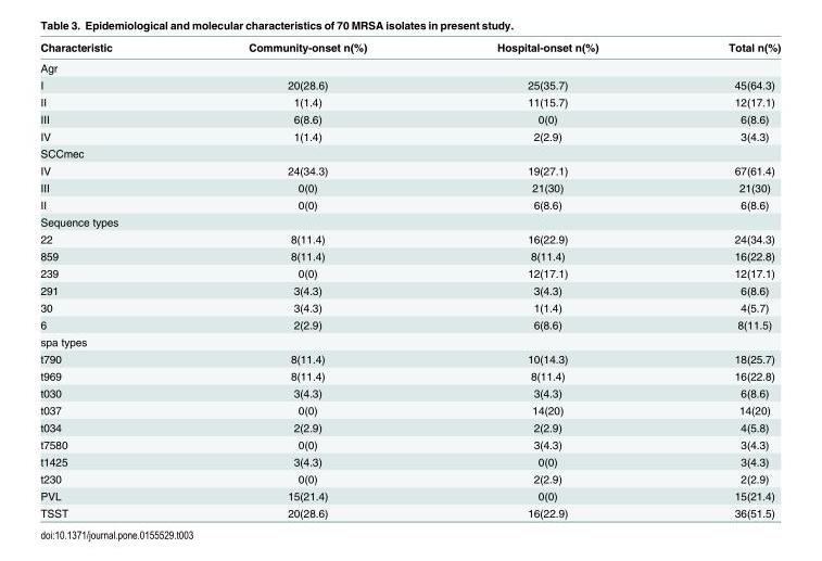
<table><thead><tr><td>Characteristic</td><td>Community-onset n(%)</td><td>Hospital-onset n(%)</td><td>Total n(%)</td></tr></thead><tbody><tr><td colspan="4">Agr</td></tr><tr><td>I</td><td>20(28.6)</td><td>25(35.7)</td><td>45(64.3)</td></tr><tr><td>II</td><td>1(1.4)</td><td>11(15.7)</td><td>12(17.1)</td></tr><tr><td>III</td><td>6(8.6)</td><td>0(0)</td><td>6(8.6)</td></tr><tr><td>IV</td><td>1(1.4)</td><td>2(2.9)</td><td>3(4.3)</td></tr><tr><td colspan="4">SCCmec</td></tr><tr><td>IV</td><td>24(34.3)</td><td>19(27.1)</td><td>67(61.4)</td></tr><tr><td>III</td><td>0(0)</td><td>21(30)</td><td>21(30)</td></tr><tr><td>II</td><td>0(0)</td><td>6(8.6)</td><td>6(8.6)</td></tr><tr><td colspan="4">Sequence types</td></tr><tr><td>22</td><td>8(11.4)</td><td>16(22.9)</td><td>24(34.3)</td></tr><tr><td>859</td><td>8(11.4)</td><td>8(11.4)</td><td>16(22.8)</td></tr><tr><td>239</td><td>0(0)</td><td>12(17.1)</td><td>12(17.1)</td></tr><tr><td>291</td><td>3(4.3)</td><td>3(4.3)</td><td>6(8.6)</td></tr><tr><td>30</td><td>3(4.3)</td><td>1(1.4)</td><td>4(5.7)</td></tr><tr><td>6</td><td>2(2.9)</td><td>6(8.6)</td><td>8(11.5)</td></tr><tr><td colspan="4">spa types</td></tr><tr><td>t790</td><td>8(11.4)</td><td>10(14.3)</td><td>18(25.7)</td></tr><tr><td>t969</td><td>8(11.4)</td><td>8(11.4)</td><td>16(22.8)</td></tr><tr><td>t030</td><td>3(4.3)</td><td>3(4.3)</td><td>6(8.6)</td></tr><tr><td>t037</td><td>0(0)</td><td>14(20)</td><td>14(20)</td></tr><tr><td>t034</td><td>2(2.9)</td><td>2(2.9)</td><td>4(5.8)</td></tr><tr><td>t7580</td><td>0(0)</td><td>3(4.3)</td><td>3(4.3)</td></tr><tr><td>t1425</td><td>3(4.3)</td><td>0(0)</td><td>3(4.3)</td></tr><tr><td>t230</td><td>0(0)</td><td>2(2.9)</td><td>2(2.9)</td></tr><tr><td>PVL</td><td>15(21.4)</td><td>0(0)</td><td>15(21.4)</td></tr><tr><td>TSST</td><td>20(28.6)</td><td>16(22.9)</td><td>36(51.5)</td></tr></tbody></table>